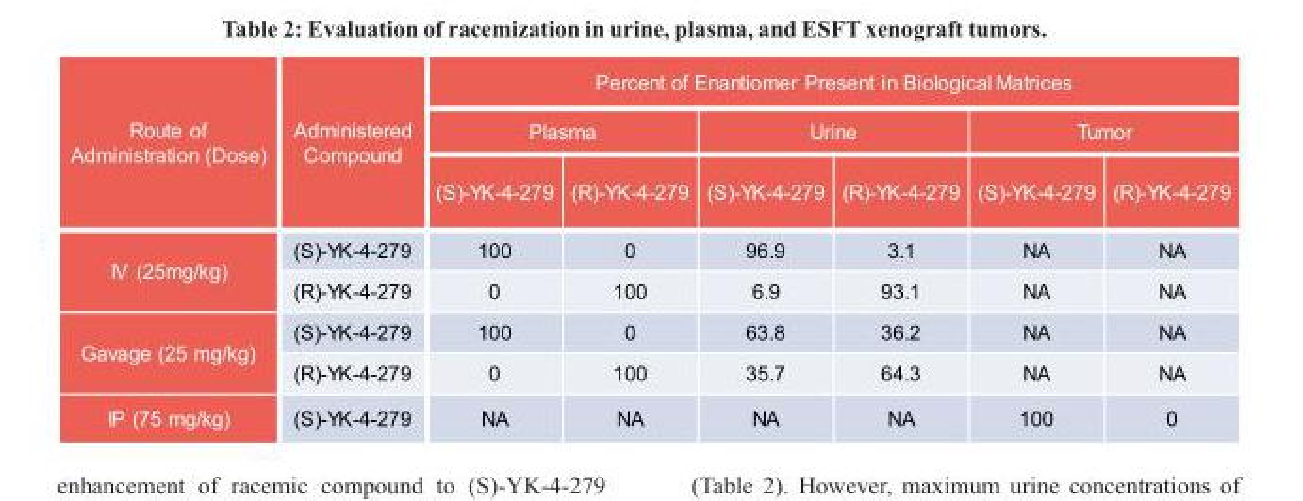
<table><thead><tr><td rowspan="3">Route of Administration (Dose)</td><td rowspan="3">Administered Compound</td><td colspan="6">Percent of Enantiomer Present in Biological Matrices</td></tr><tr><td colspan="2">Plasma</td><td colspan="2">Urine</td><td colspan="2">Tumor</td></tr><tr><td>(S)-YK-4-279</td><td>(R)-YK-4-279</td><td>(S)-YK-4-279</td><td>(R)-YK-4-279</td><td>(S)-YK-4-279</td><td>(R)-YK-4-279</td></tr></thead><tbody><tr><td rowspan="2">IV (25mg/kg)</td><td>(S)-YK-4-279</td><td>100</td><td>0</td><td>96.9</td><td>3.1</td><td>NA</td><td>NA</td></tr><tr><td>(R)-YK-4-279</td><td>0</td><td>100</td><td>6.9</td><td>93.1</td><td>NA</td><td>NA</td></tr><tr><td rowspan="2">Gavage (25 mg/kg)</td><td>(S)-YK-4-279</td><td>100</td><td>0</td><td>63.8</td><td>36.2</td><td>NA</td><td>NA</td></tr><tr><td>(R)-YK-4-279</td><td>0</td><td>100</td><td>35.7</td><td>64.3</td><td>NA</td><td>NA</td></tr><tr><td>IP (75 mg/kg)</td><td>(S)-YK-4-279</td><td>NA</td><td>NA</td><td>NA</td><td>NA</td><td>100</td><td>0</td></tr></tbody></table>